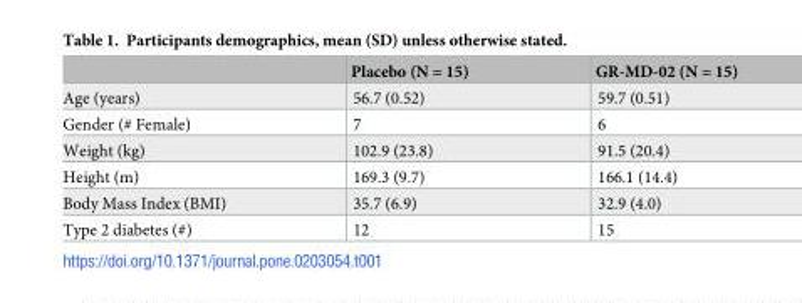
<table><thead><tr><td></td><td>Placebo (N = 15)</td><td>GR-MD-02 (N = 15)</td></tr></thead><tbody><tr><td>Age (years)</td><td>56.7 (0.52)</td><td>59.7 (0.51)</td></tr><tr><td>Gender (# Female)</td><td>7</td><td>6</td></tr><tr><td>Weight (kg)</td><td>102.9 (23.8)</td><td>91.5 (20.4)</td></tr><tr><td>Height (m)</td><td>169.3 (9.7)</td><td>166.1 (14.4)</td></tr><tr><td>Body Mass Index (BMI)</td><td>35.7 (6.9)</td><td>32.9 (4.0)</td></tr><tr><td>Type 2 diabetes (#)</td><td>12</td><td>15</td></tr></tbody></table>